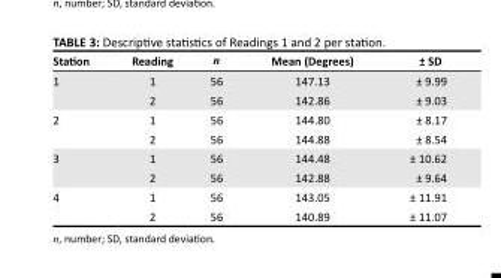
<table><thead><tr><td>Station</td><td>Reading</td><td>n</td><td>Mean (Degrees)</td><td>± SD</td></tr></thead><tbody><tr><td rowspan="2">1</td><td>1</td><td>56</td><td>147.13</td><td>± 9.99</td></tr><tr><td>2</td><td>56</td><td>142.86</td><td>± 9.03</td></tr><tr><td rowspan="2">2</td><td>1</td><td>56</td><td>144.80</td><td>± 8.17</td></tr><tr><td>2</td><td>56</td><td>144.88</td><td>± 8.54</td></tr><tr><td rowspan="2">3</td><td>1</td><td>56</td><td>144.48</td><td>± 10.62</td></tr><tr><td>2</td><td>56</td><td>142.88</td><td>± 9.64</td></tr><tr><td rowspan="2">4</td><td>1</td><td>56</td><td>143.05</td><td>± 11.91</td></tr><tr><td>2</td><td>56</td><td>140.89</td><td>± 11.07</td></tr></tbody></table>